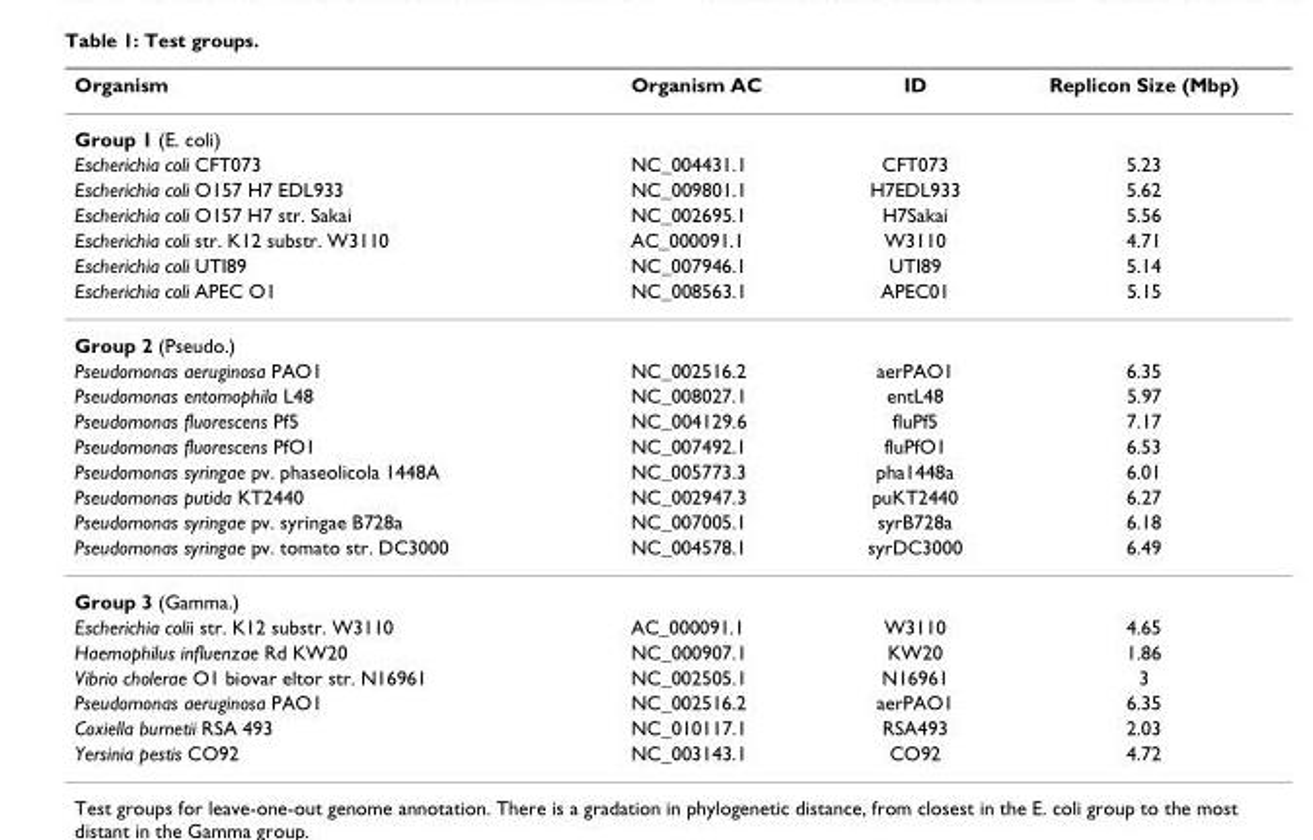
<table><thead><tr><td>Organism</td><td>Organism AC</td><td>ID</td><td>Replicon Size (Mbp)</td></tr></thead><tbody><tr><td colspan="4">Group 1 (E. coli)</td></tr><tr><td>Escherichia coli CFT073</td><td>NC_004431.1</td><td>CFT073</td><td>5.23</td></tr><tr><td>Escherichia coli O157 H7 EDL933</td><td>NC_009801.1</td><td>H7EDL933</td><td>5.62</td></tr><tr><td>Escherichia coli O157 H7 str. Sakai</td><td>NC_002695.1</td><td>H7Sakai</td><td>5.56</td></tr><tr><td>Escherichia coli str. K12 substr. W3110</td><td>AC_000091.1</td><td>W3110</td><td>4.71</td></tr><tr><td>Escherichia coli UTI89</td><td>NC_007946.1</td><td>UTI89</td><td>5.14</td></tr><tr><td>Escherichia coli APEC O1</td><td>NC_008563.1</td><td>APEC01</td><td>5.15</td></tr><tr><td colspan="4">Group 2 (Pseudo.)</td></tr><tr><td>Pseudomonas aeruginosa PAO1</td><td>NC_002516.2</td><td>aerPAO1</td><td>6.35</td></tr><tr><td>Pseudomonas entomophila L48</td><td>NC_008027.1</td><td>entL48</td><td>5.97</td></tr><tr><td>Pseudomonas fluorescens Pf5</td><td>NC_004129.6</td><td>fluPf5</td><td>7.17</td></tr><tr><td>Pseudomonas fluorescens PfO1</td><td>NC_007492.1</td><td>fluPfO1</td><td>6.53</td></tr><tr><td>Pseudomonas syringae pv. phaseolicola 1448A</td><td>NC_005773.3</td><td>pha1448a</td><td>6.01</td></tr><tr><td>Pseudomonas putida KT2440</td><td>NC_002947.3</td><td>puKT2440</td><td>6.27</td></tr><tr><td>Pseudomonas syringae pv. syringae B728a</td><td>NC_007005.1</td><td>syrB728a</td><td>6.18</td></tr><tr><td>Pseudomonas syringae pv. tomato str. DC3000</td><td>NC_004578.1</td><td>syrDC3000</td><td>6.49</td></tr><tr><td colspan="4">Group 3 (Gamma.)</td></tr><tr><td>Escherichia colii str. K12 substr. W3110</td><td>AC_000091.1</td><td>W3110</td><td>4.65</td></tr><tr><td>Haemophilus influenzae Rd KW20</td><td>NC_000907.1</td><td>KW20</td><td>1.86</td></tr><tr><td>Vibrio cholerae O1 biovar eltor str. N16961</td><td>NC_002505.1</td><td>N16961</td><td>3</td></tr><tr><td>Pseudomonas aeruginosa PAO1</td><td>NC_002516.2</td><td>aerPAO1</td><td>6.35</td></tr><tr><td>Coxiella burnetii RSA 493</td><td>NC_010117.1</td><td>RSA493</td><td>2.03</td></tr><tr><td>Yersinia pestis CO92</td><td>NC_003143.1</td><td>CO92</td><td>4.72</td></tr></tbody></table>